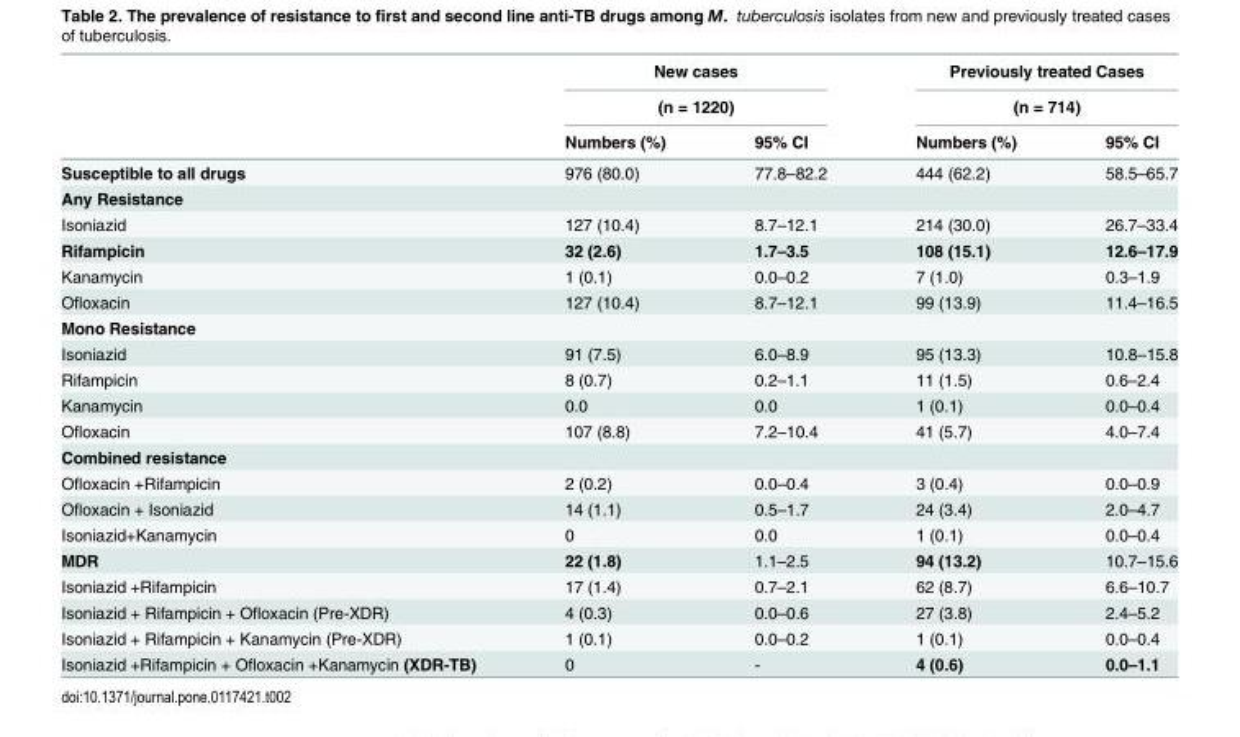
<table><thead><tr><td rowspan="3"></td><td rowspan="2" colspan="2">New cases (n = 1220)</td><td rowspan="2" colspan="2">Previously treated Cases (n = 714)</td></tr><tr></tr><tr><td>Numbers (%)</td><td>95% CI</td><td>Numbers (%)</td><td>95% CI</td></tr></thead><tbody><tr><td>Susceptible to all drugs</td><td>976 (80.0)</td><td>77.8–82.2</td><td>444 (62.2)</td><td>58.5–65.7</td></tr><tr><td colspan="5">Any Resistance</td></tr><tr><td>Isoniazid</td><td>127 (10.4)</td><td>8.7–12.1</td><td>214 (30.0)</td><td>26.7–33.4</td></tr><tr><td>Rifampicin</td><td>32 (2.6)</td><td>1.7–3.5</td><td>108 (15.1)</td><td>12.6–17.9</td></tr><tr><td>Kanamycin</td><td>1 (0.1)</td><td>0.0–0.2</td><td>7 (1.0)</td><td>0.3–1.9</td></tr><tr><td>Ofloxacin</td><td>127 (10.4)</td><td>8.7–12.1</td><td>99 (13.9)</td><td>11.4–16.5</td></tr><tr><td colspan="5">Mono Resistance</td></tr><tr><td>Isoniazid</td><td>91 (7.5)</td><td>6.0–8.9</td><td>95 (13.3)</td><td>10.8–15.8</td></tr><tr><td>Rifampicin</td><td>8 (0.7)</td><td>0.2–1.1</td><td>11 (1.5)</td><td>0.6–2.4</td></tr><tr><td>Kanamycin</td><td>0.0</td><td>0.0</td><td>1 (0.1)</td><td>0.0–0.4</td></tr><tr><td>Ofloxacin</td><td>107 (8.8)</td><td>7.2–10.4</td><td>41 (5.7)</td><td>4.0–7.4</td></tr><tr><td colspan="5">Combined resistance</td></tr><tr><td>Ofloxacin +Rifampicin</td><td>2 (0.2)</td><td>0.0–0.4</td><td>3 (0.4)</td><td>0.0–0.9</td></tr><tr><td>Ofloxacin + Isoniazid</td><td>14 (1.1)</td><td>0.5–1.7</td><td>24 (3.4)</td><td>2.0–4.7</td></tr><tr><td>Isoniazid+Kanamycin</td><td>0</td><td>0.0</td><td>1 (0.1)</td><td>0.0–0.4</td></tr><tr><td>MDR</td><td>22 (1.8)</td><td>1.1–2.5</td><td>94 (13.2)</td><td>10.7–15.6</td></tr><tr><td>Isoniazid +Rifampicin</td><td>17 (1.4)</td><td>0.7–2.1</td><td>62 (8.7)</td><td>6.6–10.7</td></tr><tr><td>Isoniazid + Rifampicin + Ofloxacin (Pre-XDR)</td><td>4 (0.3)</td><td>0.0–0.6</td><td>27 (3.8)</td><td>2.4–5.2</td></tr><tr><td>Isoniazid + Rifampicin + Kanamycin (Pre-XDR)</td><td>1 (0.1)</td><td>0.0–0.2</td><td>1 (0.1)</td><td>0.0–0.4</td></tr><tr><td>Isoniazid +Rifampicin + Ofloxacin +Kanamycin (XDR-TB)</td><td>0</td><td>-</td><td>4 (0.6)</td><td>0.0–1.1</td></tr></tbody></table>